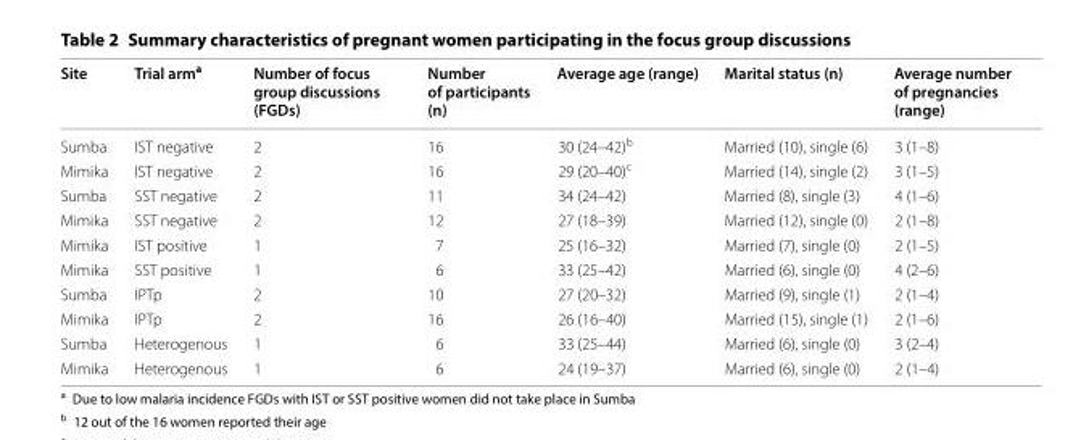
<table><thead><tr><td>Site</td><td>Trial arm<sup>a</sup></td><td>Number of focus group discussions (FGDs)</td><td>Number of participants (n)</td><td>Average age (range)</td><td>Marital status (n)</td><td>Average number of pregnancies (range)</td></tr></thead><tbody><tr><td>Sumba</td><td>IST negative</td><td>2</td><td>16</td><td>30 (24–42)<sup>b</sup></td><td>Married (10), single (6)</td><td>3 (1–8)</td></tr><tr><td>Mimika</td><td>IST negative</td><td>2</td><td>16</td><td>29 (20–40)<sup>c</sup></td><td>Married (14), single (2)</td><td>3 (1–5)</td></tr><tr><td>Sumba</td><td>SST negative</td><td>2</td><td>11</td><td>34 (24–42)</td><td>Married (8), single (3)</td><td>4 (1–6)</td></tr><tr><td>Mimika</td><td>SST negative</td><td>2</td><td>12</td><td>27 (18–39)</td><td>Married (12), single (0)</td><td>2 (1–8)</td></tr><tr><td>Mimika</td><td>IST positive</td><td>1</td><td>7</td><td>25 (16–32)</td><td>Married (7), single (0)</td><td>2 (1–5)</td></tr><tr><td>Mimika</td><td>SST positive</td><td>1</td><td>6</td><td>33 (25–42)</td><td>Married (6), single (0)</td><td>4 (2–6)</td></tr><tr><td>Sumba</td><td>IPTp</td><td>2</td><td>10</td><td>27 (20–32)</td><td>Married (9), single (1)</td><td>2 (1–4)</td></tr><tr><td>Mimika</td><td>IPTp</td><td>2</td><td>16</td><td>26 (16–40)</td><td>Married (15), single (1)</td><td>2 (1–6)</td></tr><tr><td>Sumba</td><td>Heterogenous</td><td>1</td><td>6</td><td>33 (25–44)</td><td>Married (6), single (0)</td><td>3 (2–4)</td></tr><tr><td>Mimika</td><td>Heterogenous</td><td>1</td><td>6</td><td>24 (19–37)</td><td>Married (6), single (0)</td><td>2 (1–4)</td></tr></tbody></table>